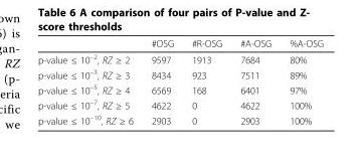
<table><thead><tr><td></td><td>#OSG</td><td>#R-OSG</td><td>#A-OSG</td><td>%A-OSG</td></tr></thead><tbody><tr><td>p-value ≤ 10<sup>–2</sup>, RZ ≥ 2</td><td>9597</td><td>1913</td><td>7684</td><td>80%</td></tr><tr><td>p-value ≤ 10<sup>–3</sup>, RZ ≥ 3</td><td>8434</td><td>923</td><td>7511</td><td>89%</td></tr><tr><td>p-value ≤ 10<sup>–5</sup>, RZ ≥ 4</td><td>6569</td><td>168</td><td>6401</td><td>97%</td></tr><tr><td>p-value ≤ 10<sup>–7</sup>, RZ ≥ 5</td><td>4622</td><td>0</td><td>4622</td><td>100%</td></tr><tr><td>p-value ≤ 10<sup>–10</sup>, RZ ≥ 6</td><td>2903</td><td>0</td><td>2903</td><td>100%</td></tr></tbody></table>